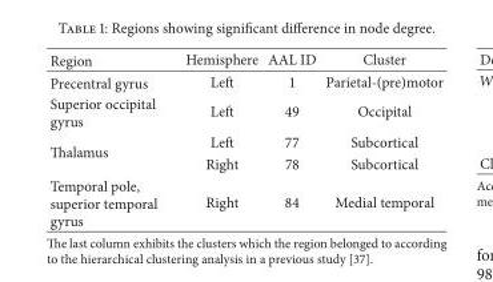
<table><thead><tr><td>Region</td><td>Hemisphere</td><td>AAL ID</td><td>Cluster</td></tr></thead><tbody><tr><td>Precentral gyrus</td><td>Left</td><td>1</td><td>Parietal-(pre)motor</td></tr><tr><td>Superior occipital gyrus</td><td>Left</td><td>49</td><td>Occipital</td></tr><tr><td rowspan="2">Thalamus</td><td>Left</td><td>77</td><td>Subcortical</td></tr><tr><td>Right</td><td>78</td><td>Subcortical</td></tr><tr><td>Temporal pole, superior temporal gyrus</td><td>Right</td><td>84</td><td>Medial temporal</td></tr></tbody></table>